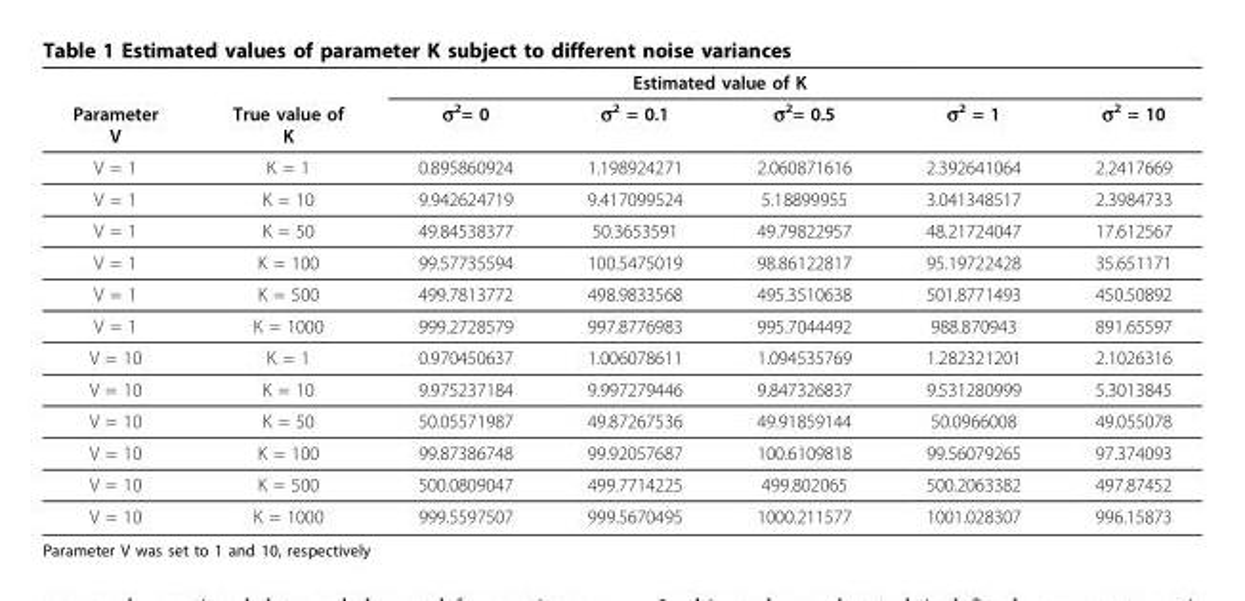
<table><thead><tr><td rowspan="2">Parameter V</td><td rowspan="2">True value of K</td><td colspan="4">Estimated value of K</td><td rowspan="2">σ<sup>2</sup> = 10</td></tr><tr><td>σ<sup>2</sup>= 0</td><td>σ<sup>2</sup> = 0.1</td><td>σ<sup>2</sup>= 0.5</td><td>σ<sup>2</sup> = 1</td></tr></thead><tbody><tr><td>V = 1</td><td>K = 1</td><td>0.895860924</td><td>1.198924271</td><td>2.060871616</td><td>2.392641064</td><td>2.2417669</td></tr><tr><td>V = 1</td><td>K = 10</td><td>9.942624719</td><td>9.417099524</td><td>5.18899955</td><td>3.041348517</td><td>2.3984733</td></tr><tr><td>V = 1</td><td>K = 50</td><td>49.84538377</td><td>50.3653591</td><td>49.79822957</td><td>48.21724047</td><td>17.612567</td></tr><tr><td>V = 1</td><td>K = 100</td><td>99.57735594</td><td>100.5475019</td><td>98.86122817</td><td>95.19722428</td><td>35.651171</td></tr><tr><td>V = 1</td><td>K = 500</td><td>499.7813772</td><td>498.9833568</td><td>495.3510638</td><td>501.8771493</td><td>450.50892</td></tr><tr><td>V = 1</td><td>K = 1000</td><td>999.2728579</td><td>997.8776983</td><td>995.7044492</td><td>988.870943</td><td>891.65597</td></tr><tr><td>V = 10</td><td>K = 1</td><td>0.970450637</td><td>1.006078611</td><td>1.094535769</td><td>1.282321201</td><td>2.1026316</td></tr><tr><td>V = 10</td><td>K = 10</td><td>9.975237184</td><td>9.997279446</td><td>9.847326837</td><td>9.531280999</td><td>5.3013845</td></tr><tr><td>V = 10</td><td>K = 50</td><td>50.05571987</td><td>49.87267536</td><td>49.91859144</td><td>50.0966008</td><td>49.055078</td></tr><tr><td>V = 10</td><td>K = 100</td><td>99.87386748</td><td>99.92057687</td><td>100.6109818</td><td>99.56079265</td><td>97.374093</td></tr><tr><td>V = 10</td><td>K = 500</td><td>500.0809047</td><td>499.7714225</td><td>499.802065</td><td>500.2063382</td><td>497.87452</td></tr><tr><td>V = 10</td><td>K = 1000</td><td>999.5597507</td><td>999.5670495</td><td>1000.211577</td><td>1001.028307</td><td>996.15873</td></tr></tbody></table>